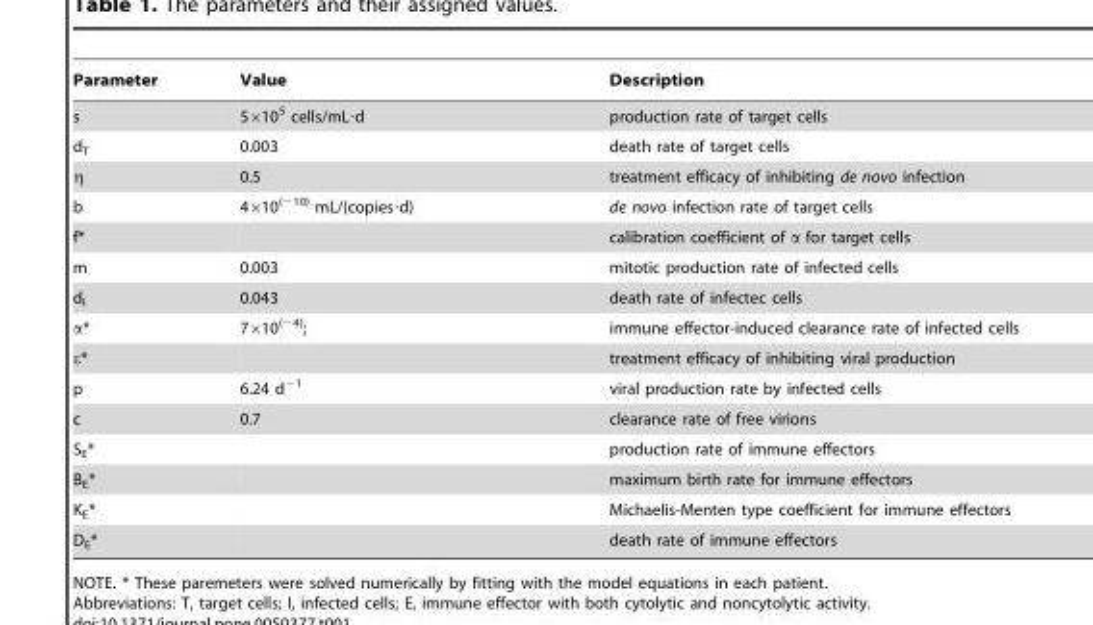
<table><thead><tr><td>Parameter</td><td>Value</td><td>Description</td></tr></thead><tbody><tr><td>s</td><td>5×10<sup>5</sup> cells/mL·d</td><td>production rate of target cells</td></tr><tr><td>d<sub>T</sub></td><td>0.003</td><td>death rate of target cells</td></tr><tr><td>η</td><td>0.5</td><td>treatment efficacy of inhibiting de novo infection</td></tr><tr><td>b</td><td>4×10<sup>(−10)</sup> mL/(copies·d)</td><td>de novo infection rate of target cells</td></tr><tr><td>f*</td><td></td><td>calibration coefficient of α for target cells</td></tr><tr><td>m</td><td>0.003</td><td>mitotic production rate of infected cells</td></tr><tr><td>d<sub>I</sub></td><td>0.043</td><td>death rate of infectec cells</td></tr><tr><td>α*</td><td>7×10<sup>(−4)</sup>;</td><td>immune effector-induced clearance rate of infected cells</td></tr><tr><td>ε*</td><td></td><td>treatment efficacy of inhibiting viral production</td></tr><tr><td>p</td><td>6.24 d<sup>−1</sup></td><td>viral production rate by infected cells</td></tr><tr><td>c</td><td>0.7</td><td>clearance rate of free virions</td></tr><tr><td>S<sub>E</sub>*</td><td></td><td>production rate of immune effectors</td></tr><tr><td>B<sub>E</sub>*</td><td></td><td>maximum birth rate for immune effectors</td></tr><tr><td>K<sub>E</sub>*</td><td></td><td>Michaelis-Menten type coefficient for immune effectors</td></tr><tr><td>D<sub>E</sub>*</td><td></td><td>death rate of immune effectors</td></tr></tbody></table>